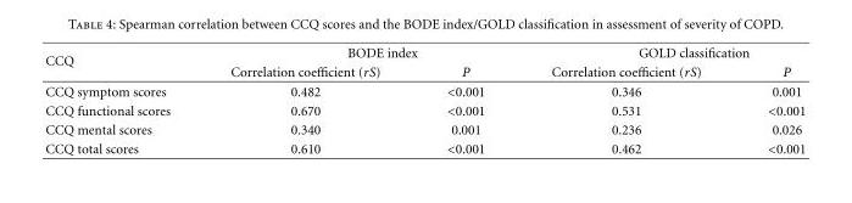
<table><thead><tr><td rowspan="2">CCQ</td><td colspan="2">BODE index</td><td colspan="2">GOLD classification</td></tr><tr><td>Correlation coefficient (rS)</td><td>P</td><td>Correlation coefficient (rS)</td><td>P</td></tr></thead><tbody><tr><td>CCQ symptom scores</td><td>0.482</td><td>&lt;0.001</td><td>0.346</td><td>0.001</td></tr><tr><td>CCQ functional scores</td><td>0.670</td><td>&lt;0.001</td><td>0.531</td><td>&lt;0.001</td></tr><tr><td>CCQ mental scores</td><td>0.340</td><td>0.001</td><td>0.236</td><td>0.026</td></tr><tr><td>CCQ total scores</td><td>0.610</td><td>&lt;0.001</td><td>0.462</td><td>&lt;0.001</td></tr></tbody></table>